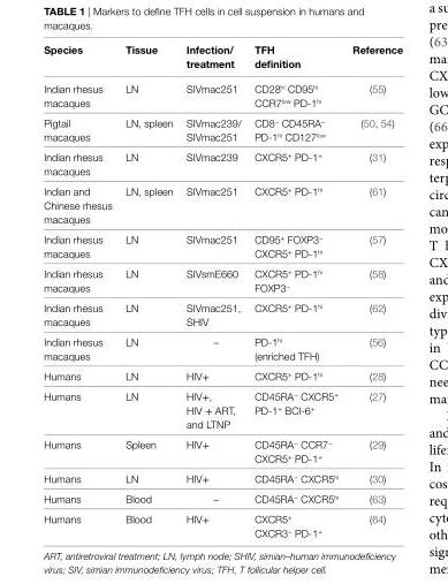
<table><thead><tr><td>Species</td><td>Tissue</td><td>infection/ treatment</td><td>TFH definition</td><td>Reference</td></tr></thead><tbody><tr><td>Indian rhesus macaques</td><td>LN</td><td>SIVmac251</td><td>CD28<sup>hi</sup> CD95<sup>hi</sup> CCR7<sup>low</sup> PD-1<sup>hi</sup></td><td>(55)</td></tr><tr><td>Pigtail macaques</td><td>LN, spleen</td><td>SIVmac239/ SIVmac251</td><td>CD8<sup>−</sup> CD45RA<sup>−</sup> PD-1<sup>hi</sup> CD127<sup>low</sup></td><td>(50, 54)</td></tr><tr><td>Indian rhesus macaques</td><td>LN</td><td>SIVmac239</td><td>CXCR5<sup>+</sup> PD-1<sup>+</sup></td><td>(31)</td></tr><tr><td>Indian and Chinese rhesus macaques</td><td>LN, spleen</td><td>SIVmac251</td><td>CXCR5<sup>+</sup> PD-1<sup>hi</sup></td><td>(61)</td></tr><tr><td>Indian rhesus macaques</td><td>LN</td><td>SIVmac251</td><td>CD95<sup>+</sup> FOXP3<sup>−</sup> CXCR5<sup>+</sup> PD-1<sup>hi</sup></td><td>(57)</td></tr><tr><td>Indian rhesus macaques</td><td>LN</td><td>SIVsmE660</td><td>CXCR5<sup>+</sup> PD-1<sup>hi</sup> FOXP3<sup>−</sup></td><td>(58)</td></tr><tr><td>Indian rhesus macaques</td><td>LN</td><td>SIVmac251, SHIV</td><td>CXCR5<sup>+</sup> PD-1<sup>hi</sup></td><td>(62)</td></tr><tr><td>Indian rhesus macaques</td><td>LN</td><td>–</td><td>PD-1<sup>hi</sup> (enriched TFH)</td><td>(56)</td></tr><tr><td>Humans</td><td>LN</td><td>HIV+</td><td>CXCR5<sup>+</sup> PD-1<sup>hi</sup></td><td>(28)</td></tr><tr><td>Humans</td><td>LN</td><td>HIV+, HIV + ART, and LTNP</td><td>CD45RA<sup>−</sup> CXCR5<sup>+</sup> PD-1<sup>+</sup> BCl-6<sup>+</sup></td><td>(27)</td></tr><tr><td>Humans</td><td>Spleen</td><td>HIV+</td><td>CD45RA<sup>−</sup> CCR7<sup>−</sup> CXCR5<sup>+</sup> PD-1<sup>+</sup></td><td>(29)</td></tr><tr><td>Humans</td><td>LN</td><td>HIV+</td><td>CD45RA<sup>−</sup> CXCR5<sup>hi</sup></td><td>(30)</td></tr><tr><td>Humans</td><td>Blood</td><td>–</td><td>CD45RA<sup>−</sup> CXCR5<sup>hi</sup></td><td>(63)</td></tr><tr><td>Humans</td><td>Blood</td><td>HIV+</td><td>CXCR5<sup>+</sup> CXCR3<sup>−</sup> PD-1<sup>+</sup></td><td>(64)</td></tr></tbody></table>